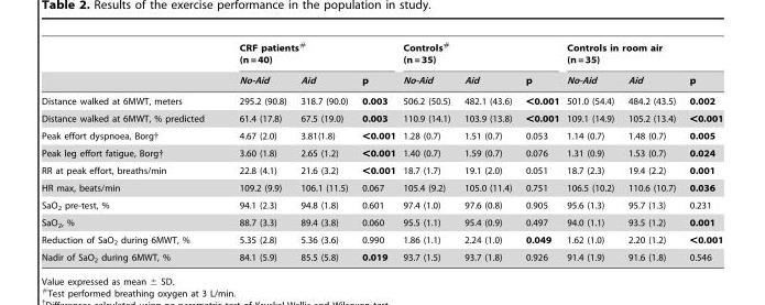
<table><thead><tr><td rowspan="2"></td><td colspan="3">CRF patients# (n = 40)</td><td colspan="3">Controls# (n = 35)</td><td colspan="3">Controls in room air (n = 35)</td></tr><tr><td>No-Aid</td><td>Aid</td><td>p</td><td>No-Aid</td><td>Aid</td><td>p</td><td>No-Aid</td><td>Aid</td><td>p</td></tr></thead><tbody><tr><td>Distance walked at 6MWT, meters</td><td>295.2 (90.8)</td><td>318.7 (90.0)</td><td>0.003</td><td>506.2 (50.5)</td><td>482.1 (43.6)</td><td>&lt;0.001</td><td>501.0 (54.4)</td><td>484.2 (43.5)</td><td>0.002</td></tr><tr><td>Distance walked at 6MWT, % predicted</td><td>61.4 (17.8)</td><td>67.5 (19.0)</td><td>0.003</td><td>110.9 (14.1)</td><td>103.9 (13.8)</td><td>&lt;0.001</td><td>109.1 (14.9)</td><td>105.2 (13.4)</td><td>&lt;0.001</td></tr><tr><td>Peak effort dyspnoea, Borg†</td><td>4.67 (2.0)</td><td>3.81(1.8)</td><td>&lt;0.001</td><td>1.28 (0.7)</td><td>1.51 (0.7)</td><td>0.053</td><td>1.14 (0.7)</td><td>1.48 (0.7)</td><td>0.005</td></tr><tr><td>Peak leg effort fatigue, Borg†</td><td>3.60 (1.8)</td><td>2.65 (1.2)</td><td>&lt;0.001</td><td>1.40 (0.7)</td><td>1.59 (0.7)</td><td>0.076</td><td>1.31 (0.9)</td><td>1.53 (0.7)</td><td>0.024</td></tr><tr><td>RR at peak effort, breaths/min</td><td>22.8 (4.1)</td><td>21.6 (3.2)</td><td>&lt;0.001</td><td>18.7 (1.7)</td><td>19.1 (2.0)</td><td>0.051</td><td>18.7 (2.3)</td><td>19.4 (2.2)</td><td>0.001</td></tr><tr><td>HR max, beats/min</td><td>109.2 (9.9)</td><td>106.1 (11.5)</td><td>0.067</td><td>105.4 (9.2)</td><td>105.0 (11.4)</td><td>0.751</td><td>106.5 (10.2)</td><td>110.6 (10.7)</td><td>0.036</td></tr><tr><td>SaO<sub>2</sub> pre-test, %</td><td>94.1 (2.3)</td><td>94.8 (1.8)</td><td>0.601</td><td>97.4 (1.0)</td><td>97.6 (0.8)</td><td>0.905</td><td>95.6 (1.3)</td><td>95.7 (1.3)</td><td>0.231</td></tr><tr><td>SaO<sub>2</sub>, %</td><td>88.7 (3.3)</td><td>89.4 (3.8)</td><td>0.060</td><td>95.5 (1.1)</td><td>95.4 (0.9)</td><td>0.497</td><td>94.0 (1.1)</td><td>93.5 (1.2)</td><td>0.001</td></tr><tr><td>Reduction of SaO<sub>2</sub> during 6MWT, %</td><td>5.35 (2.8)</td><td>5.36 (3.6)</td><td>0.990</td><td>1.86 (1.1)</td><td>2.24 (1.0)</td><td>0.049</td><td>1.62 (1.0)</td><td>2.20 (1.2)</td><td>&lt;0.001</td></tr><tr><td>Nadir of SaO<sub>2</sub> during 6MWT, %</td><td>84.1 (5.9)</td><td>85.5 (5.8)</td><td>0.019</td><td>93.7 (1.5)</td><td>93.7 (1.8)</td><td>0.926</td><td>91.4 (1.9)</td><td>91.6 (1.8)</td><td>0.546</td></tr></tbody></table>